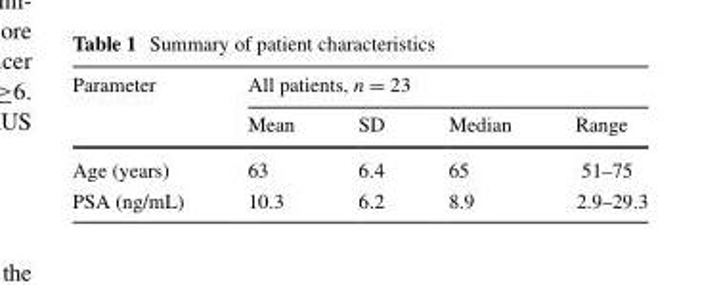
<table><thead><tr><td rowspan="2">Parameter</td><td colspan="4">All patients, n = 23</td></tr><tr><td>Mean</td><td>SD</td><td>Median</td><td>Range</td></tr></thead><tbody><tr><td>Age (years)</td><td>63</td><td>6.4</td><td>65</td><td>51–75</td></tr><tr><td>PSA (ng/mL)</td><td>10.3</td><td>6.2</td><td>8.9</td><td>2.9–29.3</td></tr></tbody></table>